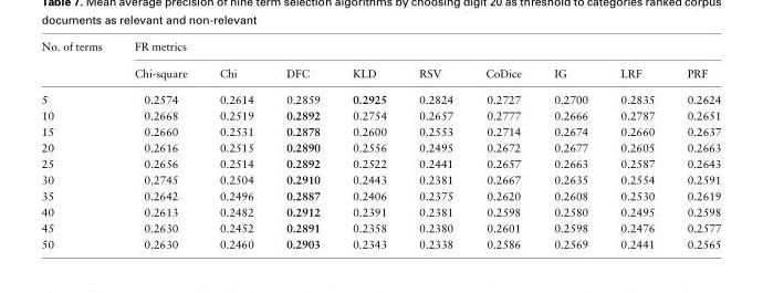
<table><thead><tr><td rowspan="2">No. of terms</td><td colspan="9">FR metrics</td></tr><tr><td>Chi-square</td><td>Chi</td><td>DFC</td><td>KLD</td><td>RSV</td><td>CoDice</td><td>IG</td><td>LRF</td><td>PRF</td></tr></thead><tbody><tr><td>5</td><td>0.2574</td><td>0.2614</td><td>0.2859</td><td>0.2925</td><td>0.2824</td><td>0.2727</td><td>0.2700</td><td>0.2835</td><td>0.2624</td></tr><tr><td>10</td><td>0.2668</td><td>0.2519</td><td>0.2892</td><td>0.2754</td><td>0.2657</td><td>0.2777</td><td>0.2666</td><td>0.2787</td><td>0.2651</td></tr><tr><td>15</td><td>0.2660</td><td>0.2531</td><td>0.2878</td><td>0.2600</td><td>0.2553</td><td>0.2714</td><td>0.2674</td><td>0.2660</td><td>0.2637</td></tr><tr><td>20</td><td>0.2616</td><td>0.2515</td><td>0.2890</td><td>0.2556</td><td>0.2495</td><td>0.2672</td><td>0.2677</td><td>0.2605</td><td>0.2663</td></tr><tr><td>25</td><td>0.2656</td><td>0.2514</td><td>0.2892</td><td>0.2522</td><td>0.2441</td><td>0.2657</td><td>0.2663</td><td>0.2587</td><td>0.2643</td></tr><tr><td>30</td><td>0.2745</td><td>0.2504</td><td>0.2910</td><td>0.2443</td><td>0.2381</td><td>0.2667</td><td>0.2635</td><td>0.2554</td><td>0.2591</td></tr><tr><td>35</td><td>0.2642</td><td>0.2496</td><td>0.2887</td><td>0.2406</td><td>0.2375</td><td>0.2620</td><td>0.2608</td><td>0.2530</td><td>0.2619</td></tr><tr><td>40</td><td>0.2613</td><td>0.2482</td><td>0.2912</td><td>0.2391</td><td>0.2381</td><td>0.2598</td><td>0.2580</td><td>0.2495</td><td>0.2598</td></tr><tr><td>45</td><td>0.2630</td><td>0.2452</td><td>0.2891</td><td>0.2358</td><td>0.2380</td><td>0.2601</td><td>0.2598</td><td>0.2476</td><td>0.2577</td></tr><tr><td>50</td><td>0.2630</td><td>0.2460</td><td>0.2903</td><td>0.2343</td><td>0.2338</td><td>0.2586</td><td>0.2569</td><td>0.2441</td><td>0.2565</td></tr></tbody></table>